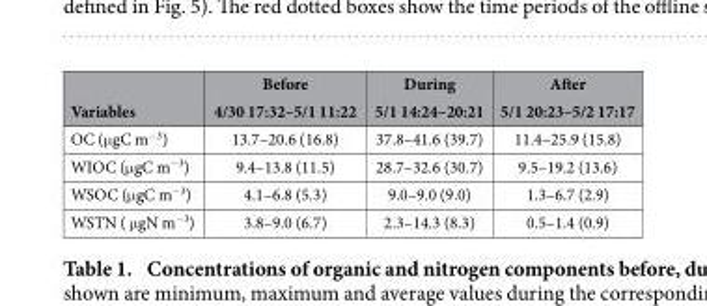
<table><thead><tr><td>Variables</td><td>Before 4/30 17:32–5/1 11:22</td><td>During 5/1 14:24–20:21</td><td>After 5/1 20:23–5/2 17:17</td></tr></thead><tbody><tr><td>OC (μ gC m<sup>−3</sup>)</td><td>13.7–20.6 (16.8)</td><td>37.8–41.6 (39.7)</td><td>11.4–25.9 (15.8)</td></tr><tr><td>WIOC (μ gC m<sup>−3</sup>)</td><td>9.4–13.8 (11.5)</td><td>28.7–32.6 (30.7)</td><td>9.5–19.2 (13.6)</td></tr><tr><td>WSOC (μ gC m<sup>−3</sup>)</td><td>4.1–6.8 (5.3)</td><td>9.0–9.0 (9.0)</td><td>1.3–6.7 (2.9)</td></tr><tr><td>WSTN ( μ gN m<sup>−3</sup>)</td><td>3.8–9.0 (6.7)</td><td>2.3–14.3 (8.3)</td><td>0.5–1.4 (0.9)</td></tr></tbody></table>